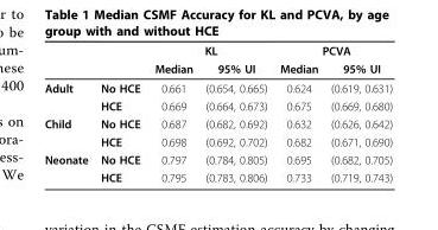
<table><thead><tr><td rowspan="2"></td><td rowspan="2"></td><td colspan="2">KL</td><td colspan="2">PCVA</td></tr><tr><td>Median</td><td>95% UI</td><td>Median</td><td>95% UI</td></tr></thead><tbody><tr><td rowspan="2">Adult</td><td>No HCE</td><td>0.661</td><td>(0.654, 0.665)</td><td>0.624</td><td>(0.619, 0.631)</td></tr><tr><td>HCE</td><td>0.669</td><td>(0.664, 0.673)</td><td>0.675</td><td>(0.669, 0.680)</td></tr><tr><td rowspan="2">Child</td><td>No HCE</td><td>0.687</td><td>(0.682, 0.692)</td><td>0.632</td><td>(0.626, 0.642)</td></tr><tr><td>HCE</td><td>0.698</td><td>(0.692, 0.702)</td><td>0.682</td><td>(0.671, 0.690)</td></tr><tr><td rowspan="2">Neonate</td><td>No HCE</td><td>0.797</td><td>(0.784, 0.805)</td><td>0.695</td><td>(0.682, 0.705)</td></tr><tr><td>HCE</td><td>0.795</td><td>(0.783, 0.806)</td><td>0.733</td><td>(0.719, 0.743)</td></tr></tbody></table>